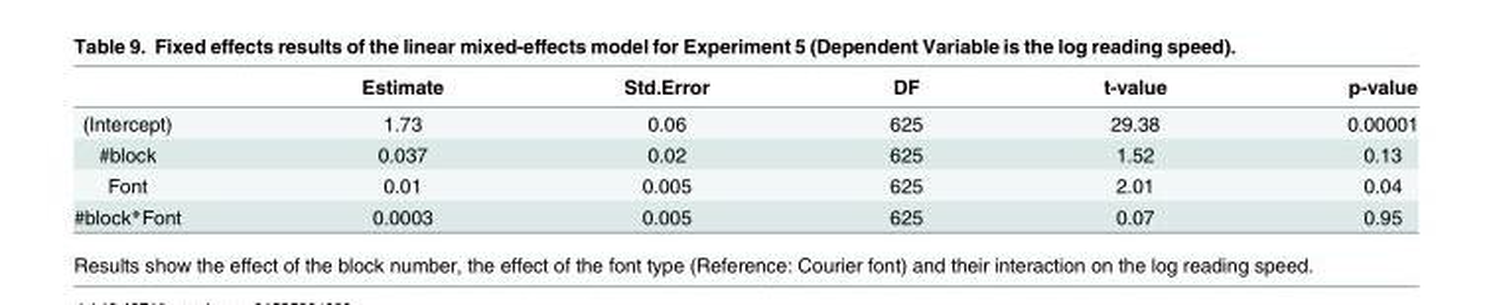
<table><thead><tr><td></td><td>Estimate</td><td>Std.Error</td><td>DF</td><td>t-value</td><td>p-value</td></tr></thead><tbody><tr><td>(Intercept)</td><td>1.73</td><td>0.06</td><td>625</td><td>29.38</td><td>0.00001</td></tr><tr><td>#block</td><td>0.037</td><td>0.02</td><td>625</td><td>1.52</td><td>0.13</td></tr><tr><td>Font</td><td>0.01</td><td>0.005</td><td>625</td><td>2.01</td><td>0.04</td></tr><tr><td>#block*Font</td><td>0.0003</td><td>0.005</td><td>625</td><td>0.07</td><td>0.95</td></tr></tbody></table>